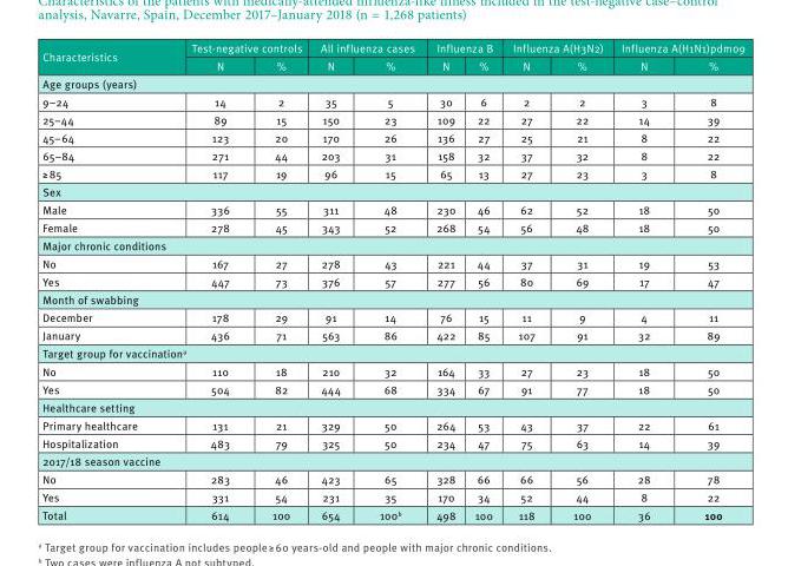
<table><thead><tr><td rowspan="2">Characteristics</td><td colspan="2">Test-negative controls</td><td colspan="2">All influenza cases</td><td colspan="2">Influenza B</td><td colspan="2">Influenza A(H3N2)</td><td colspan="2">Influenza A(H1N1)pdm09</td></tr><tr><td>N</td><td>%</td><td>N</td><td>%</td><td>N</td><td>%</td><td>N</td><td>%</td><td>N</td><td>%</td></tr></thead><tbody><tr><td colspan="11">Age groups (years)</td></tr><tr><td>9–24</td><td>14</td><td>2</td><td>35</td><td>5</td><td>30</td><td>6</td><td>2</td><td>2</td><td>3</td><td>8</td></tr><tr><td>25–44</td><td>89</td><td>15</td><td>150</td><td>23</td><td>109</td><td>22</td><td>27</td><td>22</td><td>14</td><td>39</td></tr><tr><td>45–64</td><td>123</td><td>20</td><td>170</td><td>26</td><td>136</td><td>27</td><td>25</td><td>21</td><td>8</td><td>22</td></tr><tr><td>65–84</td><td>271</td><td>44</td><td>203</td><td>31</td><td>158</td><td>32</td><td>37</td><td>32</td><td>8</td><td>22</td></tr><tr><td>≥ 85</td><td>117</td><td>19</td><td>96</td><td>15</td><td>65</td><td>13</td><td>27</td><td>23</td><td>3</td><td>8</td></tr><tr><td colspan="11">Sex</td></tr><tr><td>Male</td><td>336</td><td>55</td><td>311</td><td>48</td><td>230</td><td>46</td><td>62</td><td>52</td><td>18</td><td>50</td></tr><tr><td>Female</td><td>278</td><td>45</td><td>343</td><td>52</td><td>268</td><td>54</td><td>56</td><td>48</td><td>18</td><td>50</td></tr><tr><td colspan="11">Major chronic conditions</td></tr><tr><td>No</td><td>167</td><td>27</td><td>278</td><td>43</td><td>221</td><td>44</td><td>37</td><td>31</td><td>19</td><td>53</td></tr><tr><td>Yes</td><td>447</td><td>73</td><td>376</td><td>57</td><td>277</td><td>56</td><td>80</td><td>69</td><td>17</td><td>47</td></tr><tr><td colspan="11">Month of swabbing</td></tr><tr><td>December</td><td>178</td><td>29</td><td>91</td><td>14</td><td>76</td><td>15</td><td>11</td><td>9</td><td>4</td><td>11</td></tr><tr><td>January</td><td>436</td><td>71</td><td>563</td><td>86</td><td>422</td><td>85</td><td>107</td><td>91</td><td>32</td><td>89</td></tr><tr><td colspan="11">Target group for vaccination<sup>a</sup></td></tr><tr><td>No</td><td>110</td><td>18</td><td>210</td><td>32</td><td>164</td><td>33</td><td>27</td><td>23</td><td>18</td><td>50</td></tr><tr><td>Yes</td><td>504</td><td>82</td><td>444</td><td>68</td><td>334</td><td>67</td><td>91</td><td>77</td><td>18</td><td>50</td></tr><tr><td colspan="11">Healthcare setting</td></tr><tr><td>Primary healthcare</td><td>131</td><td>21</td><td>329</td><td>50</td><td>264</td><td>53</td><td>43</td><td>37</td><td>22</td><td>61</td></tr><tr><td>Hospitalization</td><td>483</td><td>79</td><td>325</td><td>50</td><td>234</td><td>47</td><td>75</td><td>63</td><td>14</td><td>39</td></tr><tr><td colspan="11">2017/18 season vaccine</td></tr><tr><td>No</td><td>283</td><td>46</td><td>423</td><td>65</td><td>328</td><td>66</td><td>66</td><td>56</td><td>28</td><td>78</td></tr><tr><td>Yes</td><td>331</td><td>54</td><td>231</td><td>35</td><td>170</td><td>34</td><td>52</td><td>44</td><td>8</td><td>22</td></tr><tr><td>Total</td><td>614</td><td>100</td><td>654</td><td>100<sup>b</sup></td><td>498</td><td>100</td><td>118</td><td>100</td><td>36</td><td>100</td></tr></tbody></table>